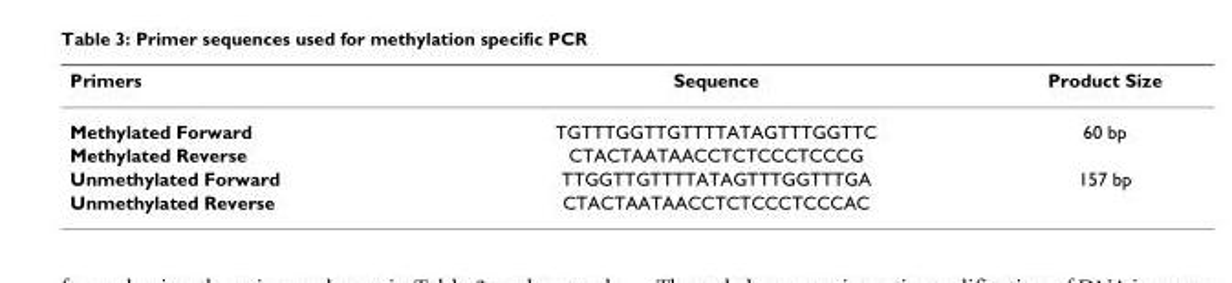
<table><thead><tr><td>Primers</td><td>Sequence</td><td>Product Size</td></tr></thead><tbody><tr><td>Methylated Forward</td><td>TGTTTGGTTGTTTTATAGTTTGGTTC</td><td>60 bp</td></tr><tr><td>Methylated Reverse</td><td>CTACTAATAACCTCTCCCTCCCG</td><td></td></tr><tr><td>Unmethylated Forward</td><td>TTGGTTGTTTTATAGTTTGGTTTGA</td><td>157 bp</td></tr><tr><td>Unmethylated Reverse</td><td>CTACTAATAACCTCTCCCTCCCAC</td><td></td></tr></tbody></table>